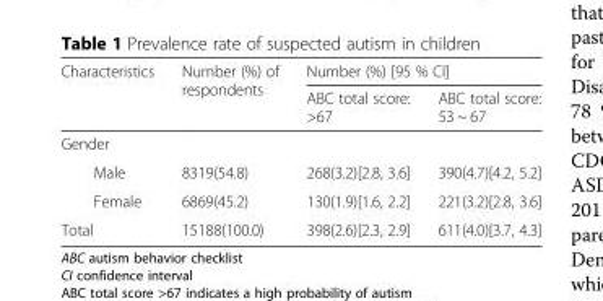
<table><thead><tr><td rowspan="2">Characteristics</td><td rowspan="2">Number (%) of respondents</td><td colspan="2">Number (%) [95 % CI]</td></tr><tr><td>ABC total score: &gt;67</td><td>ABC total score: 53 ~ 67</td></tr></thead><tbody><tr><td colspan="4">Gender</td></tr><tr><td>Male</td><td>8319(54.8)</td><td>268(3.2)[2.8, 3.6]</td><td>390(4.7)[4.2, 5.2]</td></tr><tr><td>Female</td><td>6869(45.2)</td><td>130(1.9)[1.6, 2.2]</td><td>221(3.2)[2.8, 3.6]</td></tr><tr><td>Total</td><td>15188(100.0)</td><td>398(2.6)[2.3, 2.9]</td><td>611(4.0)[3.7, 4.3]</td></tr></tbody></table>